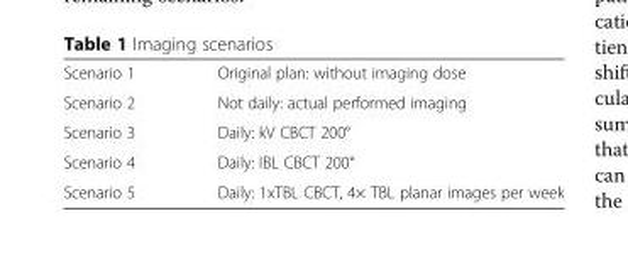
<table><tbody><tr><td>Scenario 1</td><td>Original plan: without imaging dose</td></tr><tr><td>Scenario 2</td><td>Not daily: actual performed imaging</td></tr><tr><td>Scenario 3</td><td>Daily: kV CBCT 200°</td></tr><tr><td>Scenario 4</td><td>Daily: IBL CBCT 200°</td></tr><tr><td>Scenario 5</td><td>Daily: 1xTBL CBCT, 4× TBL planar images per week</td></tr></tbody></table>